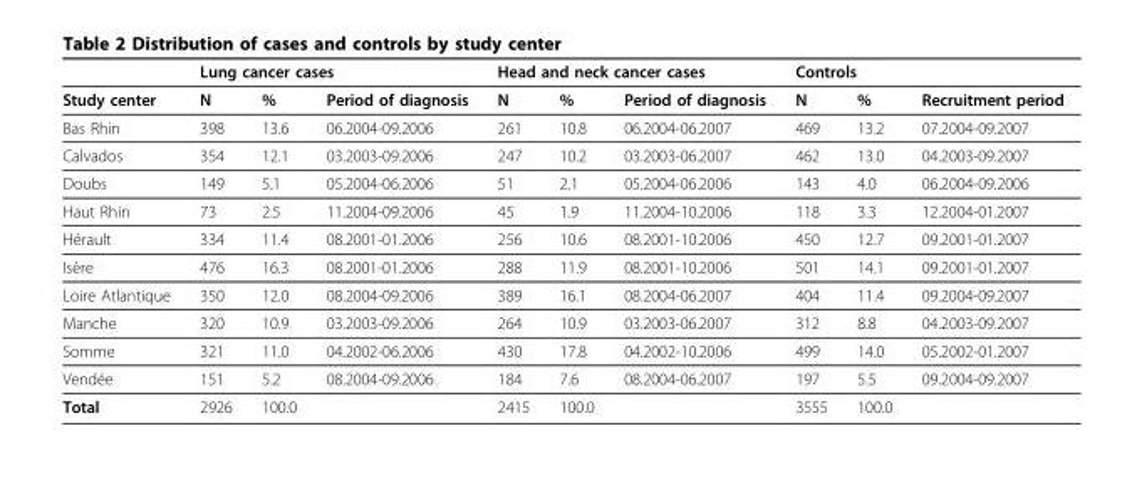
<table><thead><tr><td rowspan="2">Study center</td><td colspan="3">Lung cancer cases</td><td colspan="3">Head and neck cancer cases</td><td colspan="3">Controls</td></tr><tr><td>N</td><td>%</td><td>Period of diagnosis</td><td>N</td><td>%</td><td>Period of diagnosis</td><td>N</td><td>%</td><td>Recruitment period</td></tr></thead><tbody><tr><td>Bas Rhin</td><td>398</td><td>13.6</td><td>06.2004-09.2006</td><td>261</td><td>10.8</td><td>06.2004-06.2007</td><td>469</td><td>13.2</td><td>07.2004-09.2007</td></tr><tr><td>Calvados</td><td>354</td><td>12.1</td><td>03.2003-09.2006</td><td>247</td><td>10.2</td><td>03.2003-06.2007</td><td>462</td><td>13.0</td><td>04.2003-09.2007</td></tr><tr><td>Doubs</td><td>149</td><td>5.1</td><td>05.2004-06.2006</td><td>51</td><td>2.1</td><td>05.2004-06.2006</td><td>143</td><td>4.0</td><td>06.2004-09.2006</td></tr><tr><td>Haut Rhin</td><td>73</td><td>2.5</td><td>11.2004-09.2006</td><td>45</td><td>1.9</td><td>11.2004-10.2006</td><td>118</td><td>3.3</td><td>12.2004-01.2007</td></tr><tr><td>Hérault</td><td>334</td><td>11.4</td><td>08.2001-01.2006</td><td>256</td><td>10.6</td><td>08.2001-10.2006</td><td>450</td><td>12.7</td><td>09.2001-01.2007</td></tr><tr><td>Isère</td><td>476</td><td>16.3</td><td>08.2001-01.2006</td><td>288</td><td>11.9</td><td>08.2001-10.2006</td><td>501</td><td>14.1</td><td>09.2001-01.2007</td></tr><tr><td>Loire Atlantique</td><td>350</td><td>12.0</td><td>08.2004-09.2006</td><td>389</td><td>16.1</td><td>08.2004-06.2007</td><td>404</td><td>11.4</td><td>09.2004-09.2007</td></tr><tr><td>Manche</td><td>320</td><td>10.9</td><td>03.2003-09.2006</td><td>264</td><td>10.9</td><td>03.2003-06.2007</td><td>312</td><td>8.8</td><td>04.2003-09.2007</td></tr><tr><td>Somme</td><td>321</td><td>11.0</td><td>04.2002-06.2006</td><td>430</td><td>17.8</td><td>04.2002-10.2006</td><td>499</td><td>14.0</td><td>05.2002-01.2007</td></tr><tr><td>Vendée</td><td>151</td><td>5.2</td><td>08.2004-09.2006</td><td>184</td><td>7.6</td><td>08.2004-06.2007</td><td>197</td><td>5.5</td><td>09.2004-09.2007</td></tr><tr><td>Total</td><td>2926</td><td>100.0</td><td></td><td>2415</td><td>100.0</td><td></td><td>3555</td><td>100.0</td><td></td></tr></tbody></table>